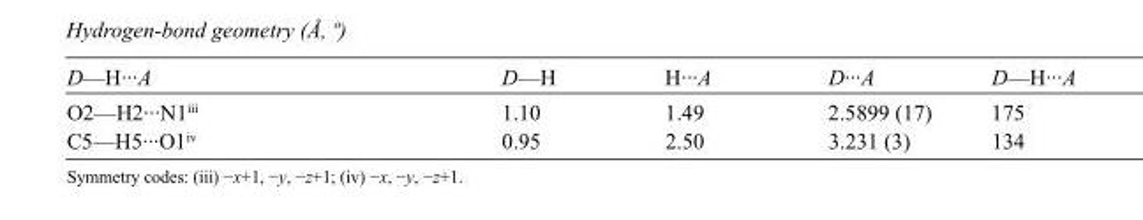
<table><tbody><tr><td>D—H···A</td><td>D—H</td><td>H···A</td><td>D···A</td><td>D—H···A</td></tr><tr><td>O2—H2···N1<sup>iii</sup></td><td>1.10</td><td>1.49</td><td>2.5899 (17)</td><td>175</td></tr><tr><td>C5—H5···O1<sup>iv</sup></td><td>0.95</td><td>2.50</td><td>3.231 (3)</td><td>134</td></tr></tbody></table>